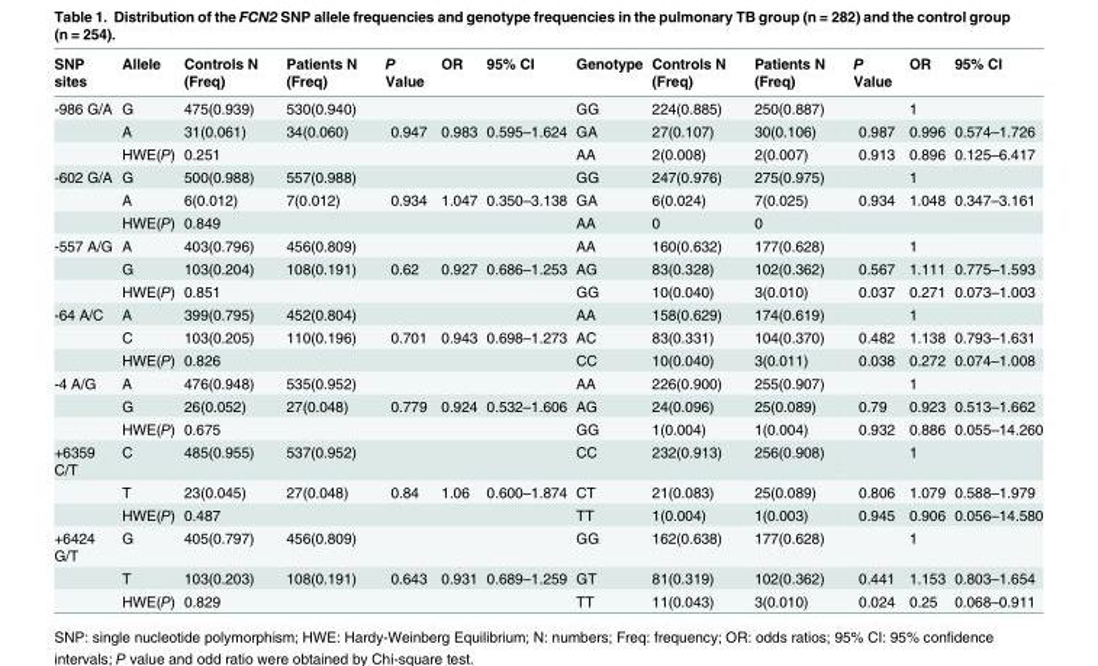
<table><thead><tr><td>SNP sites</td><td>Allele</td><td>Controls N (Freq)</td><td>Patients N (Freq)</td><td>P Value</td><td>OR</td><td>95% CI</td><td>Genotype</td><td>Controls N (Freq)</td><td>Patients N (Freq)</td><td>P Value</td><td>OR</td><td>95% CI</td></tr></thead><tbody><tr><td rowspan="3">-986 G/A</td><td>G</td><td>475(0.939)</td><td>530(0.940)</td><td></td><td></td><td></td><td>GG</td><td>224(0.885)</td><td>250(0.887)</td><td></td><td>1</td><td></td></tr><tr><td>A</td><td>31(0.061)</td><td>34(0.060)</td><td>0.947</td><td>0.983</td><td>0.595–1.624</td><td>GA</td><td>27(0.107)</td><td>30(0.106)</td><td>0.987</td><td>0.996</td><td>0.574–1.726</td></tr><tr><td>HWE(P)</td><td>0.251</td><td></td><td></td><td></td><td></td><td>AA</td><td>2(0.008)</td><td>2(0.007)</td><td>0.913</td><td>0.896</td><td>0.125–6.417</td></tr><tr><td rowspan="3">-602 G/A</td><td>G</td><td>500(0.988)</td><td>557(0.988)</td><td></td><td></td><td></td><td>GG</td><td>247(0.976)</td><td>275(0.975)</td><td></td><td>1</td><td></td></tr><tr><td>A</td><td>6(0.012)</td><td>7(0.012)</td><td>0.934</td><td>1.047</td><td>0.350–3.138</td><td>GA</td><td>6(0.024)</td><td>7(0.025)</td><td>0.934</td><td>1.048</td><td>0.347–3.161</td></tr><tr><td>HWE(P)</td><td>0.849</td><td></td><td></td><td></td><td></td><td>AA</td><td>0</td><td>0</td><td></td><td></td><td></td></tr><tr><td rowspan="3">-557 A/G</td><td>A</td><td>403(0.796)</td><td>456(0.809)</td><td></td><td></td><td></td><td>AA</td><td>160(0.632)</td><td>177(0.628)</td><td></td><td>1</td><td></td></tr><tr><td>G</td><td>103(0.204)</td><td>108(0.191)</td><td>0.62</td><td>0.927</td><td>0.686–1.253</td><td>AG</td><td>83(0.328)</td><td>102(0.362)</td><td>0.567</td><td>1.111</td><td>0.775–1.593</td></tr><tr><td>HWE(P)</td><td>0.851</td><td></td><td></td><td></td><td></td><td>GG</td><td>10(0.040)</td><td>3(0.010)</td><td>0.037</td><td>0.271</td><td>0.073–1.003</td></tr><tr><td rowspan="3">-64 A/C</td><td>A</td><td>399(0.795)</td><td>452(0.804)</td><td></td><td></td><td></td><td>AA</td><td>158(0.629)</td><td>174(0.619)</td><td></td><td>1</td><td></td></tr><tr><td>C</td><td>103(0.205)</td><td>110(0.196)</td><td>0.701</td><td>0.943</td><td>0.698–1.273</td><td>AC</td><td>83(0.331)</td><td>104(0.370)</td><td>0.482</td><td>1.138</td><td>0.793–1.631</td></tr><tr><td>HWE(P)</td><td>0.826</td><td></td><td></td><td></td><td></td><td>CC</td><td>10(0.040)</td><td>3(0.011)</td><td>0.038</td><td>0.272</td><td>0.074–1.008</td></tr><tr><td rowspan="3">-4 A/G</td><td>A</td><td>476(0.948)</td><td>535(0.952)</td><td></td><td></td><td></td><td>AA</td><td>226(0.900)</td><td>255(0.907)</td><td></td><td>1</td><td></td></tr><tr><td>G</td><td>26(0.052)</td><td>27(0.048)</td><td>0.779</td><td>0.924</td><td>0.532–1.606</td><td>AG</td><td>24(0.096)</td><td>25(0.089)</td><td>0.79</td><td>0.923</td><td>0.513–1.662</td></tr><tr><td>HWE(P)</td><td>0.675</td><td></td><td></td><td></td><td></td><td>GG</td><td>1(0.004)</td><td>1(0.004)</td><td>0.932</td><td>0.886</td><td>0.055–14.260</td></tr><tr><td rowspan="3">+6359 C/T</td><td>C</td><td>485(0.955)</td><td>537(0.952)</td><td></td><td></td><td></td><td>CC</td><td>232(0.913)</td><td>256(0.908)</td><td></td><td>1</td><td></td></tr><tr><td>T</td><td>23(0.045)</td><td>27(0.048)</td><td>0.84</td><td>1.06</td><td>0.600–1.874</td><td>CT</td><td>21(0.083)</td><td>25(0.089)</td><td>0.806</td><td>1.079</td><td>0.588–1.979</td></tr><tr><td>HWE(P)</td><td>0.487</td><td></td><td></td><td></td><td></td><td>TT</td><td>1(0.004)</td><td>1(0.003)</td><td>0.945</td><td>0.906</td><td>0.056–14.580</td></tr><tr><td rowspan="3">+6424 G/T</td><td>G</td><td>405(0.797)</td><td>456(0.809)</td><td></td><td></td><td></td><td>GG</td><td>162(0.638)</td><td>177(0.628)</td><td></td><td>1</td><td></td></tr><tr><td>T</td><td>103(0.203)</td><td>108(0.191)</td><td>0.643</td><td>0.931</td><td>0.689–1.259</td><td>GT</td><td>81(0.319)</td><td>102(0.362)</td><td>0.441</td><td>1.153</td><td>0.803–1.654</td></tr><tr><td>HWE(P)</td><td>0.829</td><td></td><td></td><td></td><td></td><td>TT</td><td>11(0.043)</td><td>3(0.010)</td><td>0.024</td><td>0.25</td><td>0.068–0.911</td></tr></tbody></table>